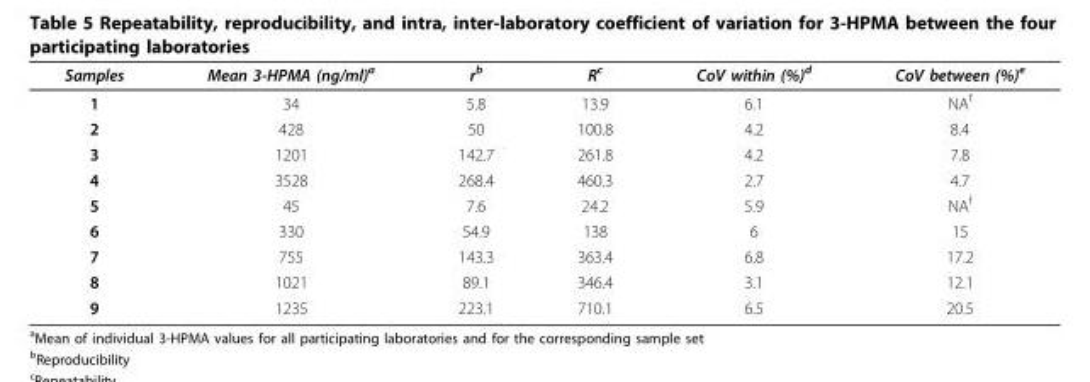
<table><thead><tr><td>Samples</td><td>Mean 3-HPMA (ng/ml)<sup>a</sup></td><td>r<sup>b</sup></td><td>R<sup>c</sup></td><td>CoV within (%)<sup>d</sup></td><td>CoV between (%)<sup>e</sup></td></tr></thead><tbody><tr><td>1</td><td>34</td><td>5.8</td><td>13.9</td><td>6.1</td><td>NA<sup>f</sup></td></tr><tr><td>2</td><td>428</td><td>50</td><td>100.8</td><td>4.2</td><td>8.4</td></tr><tr><td>3</td><td>1201</td><td>142.7</td><td>261.8</td><td>4.2</td><td>7.8</td></tr><tr><td>4</td><td>3528</td><td>268.4</td><td>460.3</td><td>2.7</td><td>4.7</td></tr><tr><td>5</td><td>45</td><td>7.6</td><td>24.2</td><td>5.9</td><td>NA<sup>f</sup></td></tr><tr><td>6</td><td>330</td><td>54.9</td><td>138</td><td>6</td><td>15</td></tr><tr><td>7</td><td>755</td><td>143.3</td><td>363.4</td><td>6.8</td><td>17.2</td></tr><tr><td>8</td><td>1021</td><td>89.1</td><td>346.4</td><td>3.1</td><td>12.1</td></tr><tr><td>9</td><td>1235</td><td>223.1</td><td>710.1</td><td>6.5</td><td>20.5</td></tr></tbody></table>